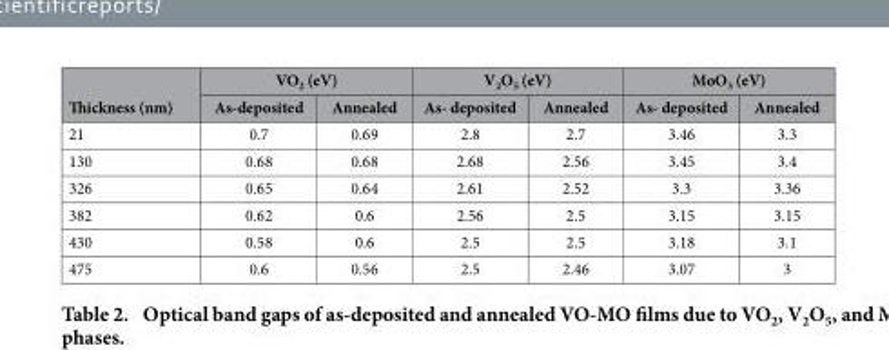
<table><thead><tr><td rowspan="2">Thickness (nm)</td><td colspan="2">VO<sub>2</sub> (eV)</td><td colspan="2">V<sub>2</sub>O<sub>5</sub> (eV)</td><td colspan="2">MoO<sub>3</sub> (eV)</td></tr><tr><td>As-deposited</td><td>Annealed</td><td>As- deposited</td><td>Annealed</td><td>As- deposited</td><td>Annealed</td></tr></thead><tbody><tr><td>21</td><td>0.7</td><td>0.69</td><td>2.8</td><td>2.7</td><td>3.46</td><td>3.3</td></tr><tr><td>130</td><td>0.68</td><td>0.68</td><td>2.68</td><td>2.56</td><td>3.45</td><td>3.4</td></tr><tr><td>326</td><td>0.65</td><td>0.64</td><td>2.61</td><td>2.52</td><td>3.3</td><td>3.36</td></tr><tr><td>382</td><td>0.62</td><td>0.6</td><td>2.56</td><td>2.5</td><td>3.15</td><td>3.15</td></tr><tr><td>430</td><td>0.58</td><td>0.6</td><td>2.5</td><td>2.5</td><td>3.18</td><td>3.1</td></tr><tr><td>475</td><td>0.6</td><td>0.56</td><td>2.5</td><td>2.46</td><td>3.07</td><td>3</td></tr></tbody></table>